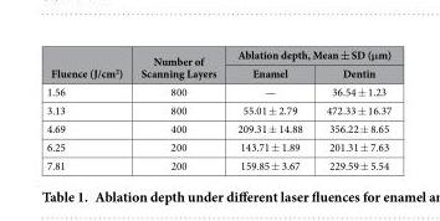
<table><thead><tr><td rowspan="2">Fluence (J/cm<sup>2</sup>)</td><td rowspan="2">Number of Scanning Layers</td><td colspan="2">Ablation depth, Mean ± SD (μm)</td></tr><tr><td>Enamel</td><td>Dentin</td></tr></thead><tbody><tr><td>1.56</td><td>800</td><td>—</td><td>36.54 ± 1.23</td></tr><tr><td>3.13</td><td>800</td><td>55.01 ± 2.79</td><td>472.33 ± 16.37</td></tr><tr><td>4.69</td><td>400</td><td>209.31 ± 14.88</td><td>356.22 ± 8.65</td></tr><tr><td>6.25</td><td>200</td><td>143.71 ± 1.89</td><td>201.31 ± 7.63</td></tr><tr><td>7.81</td><td>200</td><td>159.85 ± 3.67</td><td>229.59 ± 5.54</td></tr></tbody></table>